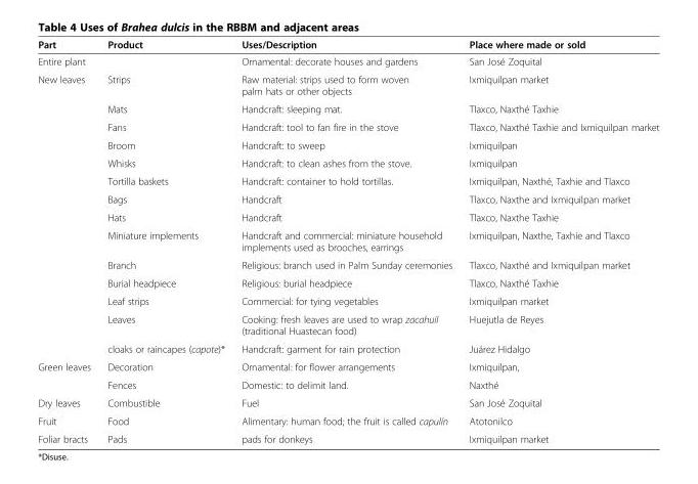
<table><thead><tr><td>Part</td><td>Product</td><td>Uses/Description</td><td>Place where made or sold</td></tr></thead><tbody><tr><td>Entire plant</td><td></td><td>Ornamental: decorate houses and gardens</td><td>San José Zoquital</td></tr><tr><td rowspan="14">New leaves</td><td>Strips</td><td>Raw material: strips used to form woven palm hats or other objects</td><td>Ixmiquilpan market</td></tr><tr><td>Mats</td><td>Handcraft: sleeping mat.</td><td>Tlaxco, Naxthé Taxhie</td></tr><tr><td>Fans</td><td>Handcraft: tool to fan fire in the stove</td><td>Tlaxco, Naxthé Taxhie and Ixmiquilpan market</td></tr><tr><td>Broom</td><td>Handcraft: to sweep</td><td>Ixmiquilpan</td></tr><tr><td>Whisks</td><td>Handcraft: to clean ashes from the stove.</td><td>Ixmiquilpan</td></tr><tr><td>Tortilla baskets</td><td>Handcraft: container to hold tortillas.</td><td>Ixmiquilpan, Naxthé, Taxhie and Tlaxco</td></tr><tr><td>Bags</td><td>Handcraft</td><td>Tlaxco, Naxthe and Ixmiquilpan market</td></tr><tr><td>Hats</td><td>Handcraft</td><td>Tlaxco, Naxthe Taxhie</td></tr><tr><td>Miniature implements</td><td>Handcraft and commercial: miniature household implements used as brooches, earrings</td><td>Ixmiquilpan, Naxthe, Taxhie and Tlaxco</td></tr><tr><td>Branch</td><td>Religious: branch used in Palm Sunday ceremonies</td><td>Tlaxco, Naxthé and Ixmiquilpan market</td></tr><tr><td>Burial headpiece</td><td>Religious: burial headpiece</td><td>Tlaxco, Naxthé Taxhie</td></tr><tr><td>Leaf strips</td><td>Commercial: for tying vegetables</td><td>Ixmiquilpan market</td></tr><tr><td>Leaves</td><td>Cooking: fresh leaves are used to wrap zacahuil (traditional Huastecan food)</td><td>Huejutla de Reyes</td></tr><tr><td>cloaks or raincapes (capote)*</td><td>Handcraft: garment for rain protection</td><td>Juárez Hidalgo</td></tr><tr><td rowspan="2">Green leaves</td><td>Decoration</td><td>Ornamental: for flower arrangements</td><td>Ixmiquilpan,</td></tr><tr><td>Fences</td><td>Domestic: to delimit land.</td><td>Naxthé</td></tr><tr><td>Dry leaves</td><td>Combustible</td><td>Fuel</td><td>San José Zoquital</td></tr><tr><td>Fruit</td><td>Food</td><td>Alimentary: human food; the fruit is called capulín</td><td>Atotonilco</td></tr><tr><td>Foliar bracts</td><td>Pads</td><td>pads for donkeys</td><td>Ixmiquilpan market</td></tr></tbody></table>